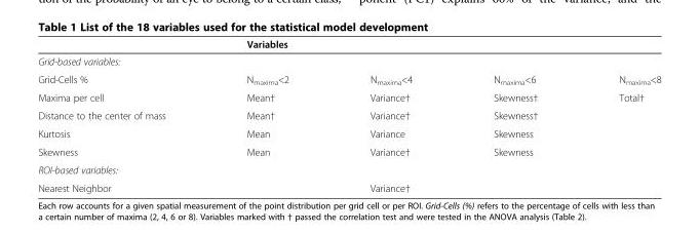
<table><thead><tr><td rowspan="2">Grid-based variables:</td><td colspan="4">Variables</td></tr><tr><td></td><td></td><td></td><td></td></tr></thead><tbody><tr><td>Grid-Cells %</td><td>N<sub>maxima</sub>&lt;2</td><td>N<sub>maxima</sub>&lt;4</td><td>N<sub>maxima</sub>&lt;6</td><td>N<sub>maxima</sub>&lt;8</td></tr><tr><td>Maxima per cell</td><td>Mean†</td><td>Variance†</td><td>Skewness†</td><td>Total†</td></tr><tr><td>Distance to the center of mass</td><td>Mean†</td><td>Variance†</td><td>Skewness†</td><td></td></tr><tr><td>Kurtosis</td><td>Mean</td><td>Variance</td><td>Skewness</td><td></td></tr><tr><td>Skewness</td><td>Mean</td><td>Variance†</td><td>Skewness</td><td></td></tr><tr><td colspan="5">ROI-based variables:</td></tr><tr><td>Nearest Neighbor</td><td></td><td>Variance†</td><td></td><td></td></tr></tbody></table>